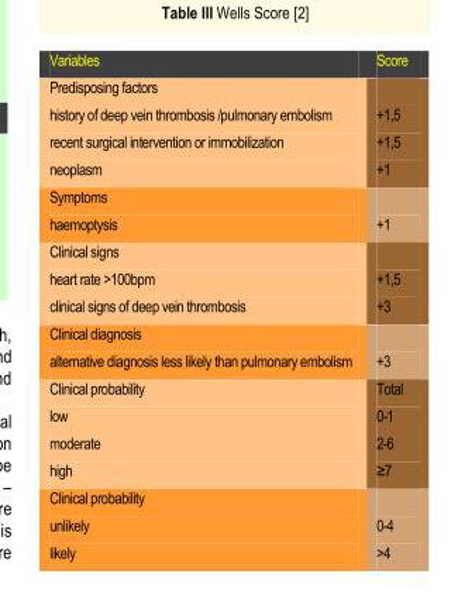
<table><thead><tr><td>Variables</td><td>Score</td></tr></thead><tbody><tr><td colspan="2">Predisposing factors</td></tr><tr><td>history of deep vein thrombosis /pulmonary embolism</td><td>+1,5</td></tr><tr><td>recent surgical intervention or immobilization</td><td>+1,5</td></tr><tr><td>neoplasm</td><td>+1</td></tr><tr><td>Symptoms haemoptysis</td><td>+1</td></tr><tr><td colspan="2">Clinical signs</td></tr><tr><td>heart rate &gt;100bpm</td><td>+1,5</td></tr><tr><td>clinical signs of deep vein thrombosis</td><td>+3</td></tr><tr><td>Clinical diagnosis alternative diagnosis less likely than pulmonary embolism</td><td>+3</td></tr><tr><td>Clinical probability</td><td>Total</td></tr><tr><td>low</td><td>0-1</td></tr><tr><td>moderate</td><td>2-6</td></tr><tr><td>high</td><td>≥7</td></tr><tr><td colspan="2">Clinical probability</td></tr><tr><td>unlikely</td><td>0-4</td></tr><tr><td>likely</td><td>&gt;4</td></tr></tbody></table>